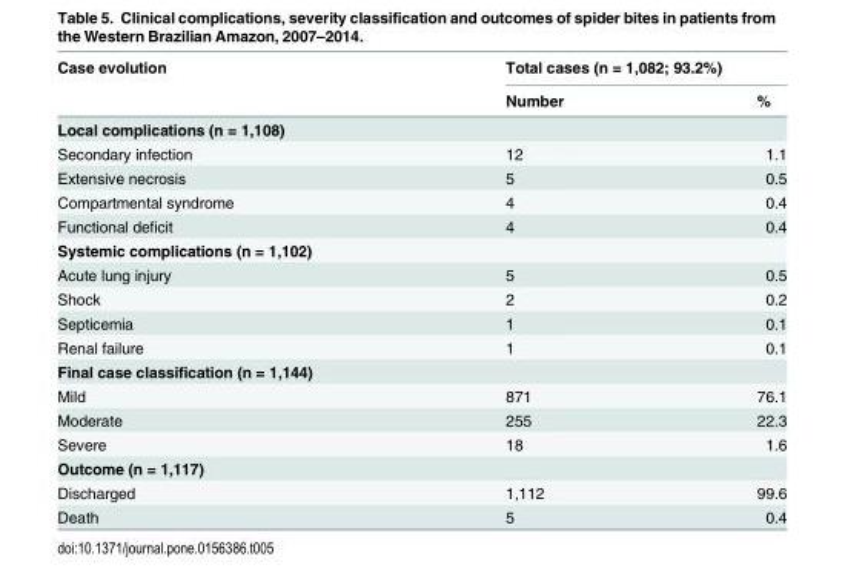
<table><thead><tr><td rowspan="2">Case evolution</td><td colspan="2">Total cases (n = 1,082; 93.2%)</td></tr><tr><td>Number</td><td>%</td></tr></thead><tbody><tr><td colspan="3">Local complications (n = 1,108)</td></tr><tr><td>Secondary infection</td><td>12</td><td>1.1</td></tr><tr><td>Extensive necrosis</td><td>5</td><td>0.5</td></tr><tr><td>Compartmental syndrome</td><td>4</td><td>0.4</td></tr><tr><td>Functional deficit</td><td>4</td><td>0.4</td></tr><tr><td colspan="3">Systemic complications (n = 1,102)</td></tr><tr><td>Acute lung injury</td><td>5</td><td>0.5</td></tr><tr><td>Shock</td><td>2</td><td>0.2</td></tr><tr><td>Septicemia</td><td>1</td><td>0.1</td></tr><tr><td>Renal failure</td><td>1</td><td>0.1</td></tr><tr><td colspan="3">Final case classification (n = 1,144)</td></tr><tr><td>Mild</td><td>871</td><td>76.1</td></tr><tr><td>Moderate</td><td>255</td><td>22.3</td></tr><tr><td>Severe</td><td>18</td><td>1.6</td></tr><tr><td colspan="3">Outcome (n = 1,117)</td></tr><tr><td>Discharged</td><td>1,112</td><td>99.6</td></tr><tr><td>Death</td><td>5</td><td>0.4</td></tr></tbody></table>